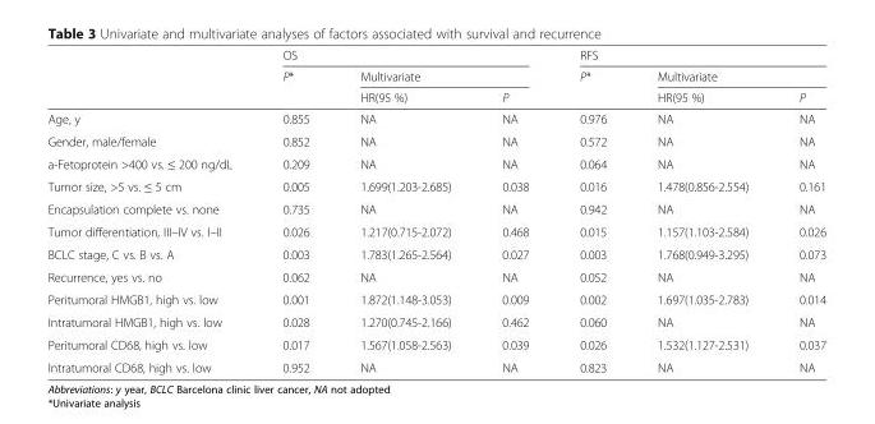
<table><thead><tr><td rowspan="3"></td><td colspan="3">OS</td><td colspan="3">RFS</td></tr><tr><td rowspan="2">P*</td><td colspan="2">Multivariate</td><td rowspan="2">P*</td><td colspan="2">Multivariate</td></tr><tr><td>HR(95 %)</td><td>P</td><td>HR(95 %)</td><td>P</td></tr></thead><tbody><tr><td>Age, y</td><td>0.855</td><td>NA</td><td>NA</td><td>0.976</td><td>NA</td><td>NA</td></tr><tr><td>Gender, male/female</td><td>0.852</td><td>NA</td><td>NA</td><td>0.572</td><td>NA</td><td>NA</td></tr><tr><td>a-Fetoprotein &gt;400 vs. ≤ 200 ng/dL</td><td>0.209</td><td>NA</td><td>NA</td><td>0.064</td><td>NA</td><td>NA</td></tr><tr><td>Tumor size, &gt;5 vs. ≤ 5 cm</td><td>0.005</td><td>1.699(1.203-2.685)</td><td>0.038</td><td>0.016</td><td>1.478(0.856-2.554)</td><td>0.161</td></tr><tr><td>Encapsulation complete vs. none</td><td>0.735</td><td>NA</td><td>NA</td><td>0.942</td><td>NA</td><td>NA</td></tr><tr><td>Tumor differentiation, III–IV vs. I–II</td><td>0.026</td><td>1.217(0.715-2.072)</td><td>0.468</td><td>0.015</td><td>1.157(1.103-2.584)</td><td>0.026</td></tr><tr><td>BCLC stage, C vs. B vs. A</td><td>0.003</td><td>1.783(1.265-2.564)</td><td>0.027</td><td>0.003</td><td>1.768(0.949-3.295)</td><td>0.073</td></tr><tr><td>Recurrence, yes vs. no</td><td>0.062</td><td>NA</td><td>NA</td><td>0.052</td><td>NA</td><td>NA</td></tr><tr><td>Peritumoral HMGB1, high vs. low</td><td>0.001</td><td>1.872(1.148-3.053)</td><td>0.009</td><td>0.002</td><td>1.697(1.035-2.783)</td><td>0.014</td></tr><tr><td>Intratumoral HMGB1, high vs. low</td><td>0.028</td><td>1.270(0.745-2.166)</td><td>0.462</td><td>0.060</td><td>NA</td><td>NA</td></tr><tr><td>Peritumoral CD68, high vs. low</td><td>0.017</td><td>1.567(1.058-2.563)</td><td>0.039</td><td>0.026</td><td>1.532(1.127-2.531)</td><td>0.037</td></tr><tr><td>Intratumoral CD68, high vs. low</td><td>0.952</td><td>NA</td><td>NA</td><td>0.823</td><td>NA</td><td>NA</td></tr></tbody></table>